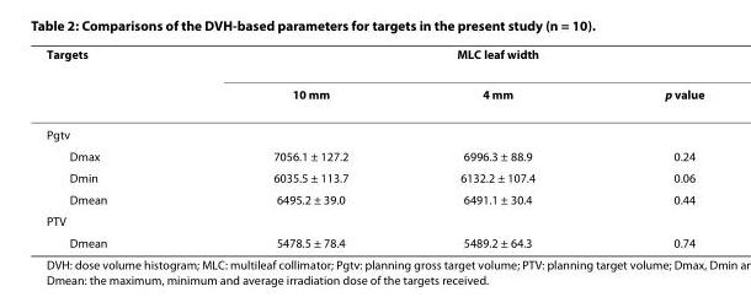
<table><thead><tr><td rowspan="2">Targets</td><td colspan="3">MLC leaf width</td></tr><tr><td>10 mm</td><td>4 mm</td><td>p value</td></tr></thead><tbody><tr><td colspan="4">Pgtv</td></tr><tr><td>Dmax</td><td>7056.1 ± 127.2</td><td>6996.3 ± 88.9</td><td>0.24</td></tr><tr><td>Dmin</td><td>6035.5 ± 113.7</td><td>6132.2 ± 107.4</td><td>0.06</td></tr><tr><td>Dmean</td><td>6495.2 ± 39.0</td><td>6491.1 ± 30.4</td><td>0.44</td></tr><tr><td colspan="4">PTV</td></tr><tr><td>Dmean</td><td>5478.5 ± 78.4</td><td>5489.2 ± 64.3</td><td>0.74</td></tr></tbody></table>